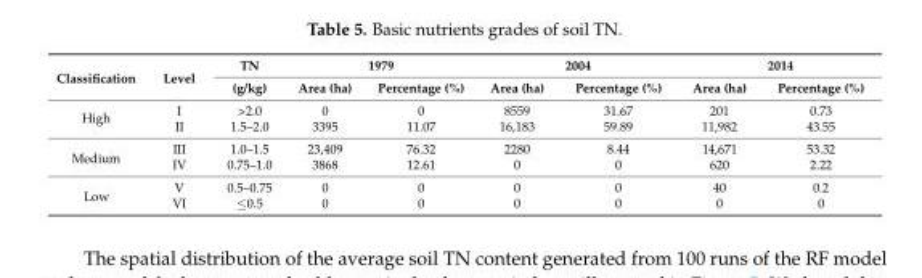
<table><thead><tr><td rowspan="2">Classification</td><td rowspan="2">Level</td><td rowspan="2">TN (g/kg)</td><td colspan="2">1979</td><td colspan="2">2004</td><td colspan="2">2014</td></tr><tr><td>Area (ha)</td><td>Percentage (%)</td><td>Area (ha)</td><td>Percentage (%)</td><td>Area (ha)</td><td>Percentage (%)</td></tr></thead><tbody><tr><td rowspan="2">High</td><td>I</td><td>&gt;2.0</td><td>0</td><td>0</td><td>8559</td><td>31.67</td><td>201</td><td>0.73</td></tr><tr><td>II</td><td>1.5–2.0</td><td>3395</td><td>11.07</td><td>16,183</td><td>59.89</td><td>11,982</td><td>43.55</td></tr><tr><td rowspan="2">Medium</td><td>III</td><td>1.0–1.5</td><td>23,409</td><td>76.32</td><td>2280</td><td>8.44</td><td>14,671</td><td>53.32</td></tr><tr><td>IV</td><td>0.75–1.0</td><td>3868</td><td>12.61</td><td>0</td><td>0</td><td>620</td><td>2.22</td></tr><tr><td rowspan="2">Low</td><td>V</td><td>0.5–0.75</td><td>0</td><td>0</td><td>0</td><td>0</td><td>40</td><td>0.2</td></tr><tr><td>VI</td><td>≤0.5</td><td>0</td><td>0</td><td>0</td><td>0</td><td>0</td><td>0</td></tr></tbody></table>